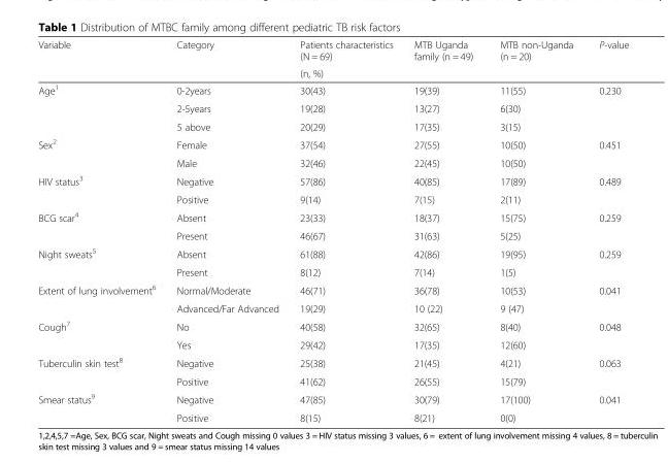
<table><thead><tr><td rowspan="2">Variable</td><td rowspan="2">Category</td><td rowspan="2">Patients characteristics (N = 69) (n, %)</td><td rowspan="2">MTB Uganda family (n = 49)</td><td rowspan="2">MTB non-Uganda (n = 20)</td><td rowspan="2">P-value</td></tr><tr></tr></thead><tbody><tr><td rowspan="3">Age<sup>1</sup></td><td>0-2years</td><td>30(43)</td><td>19(39)</td><td>11(55)</td><td rowspan="3">0.230</td></tr><tr><td>2-5years</td><td>19(28)</td><td>13(27)</td><td>6(30)</td></tr><tr><td>5 above</td><td>20(29)</td><td>17(35)</td><td>3(15)</td></tr><tr><td rowspan="2">Sex<sup>2</sup></td><td>Female</td><td>37(54)</td><td>27(55)</td><td>10(50)</td><td rowspan="2">0.451</td></tr><tr><td>Male</td><td>32(46)</td><td>22(45)</td><td>10(50)</td></tr><tr><td rowspan="2">HIV status<sup>3</sup></td><td>Negative</td><td>57(86)</td><td>40(85)</td><td>17(89)</td><td rowspan="2">0.489</td></tr><tr><td>Positive</td><td>9(14)</td><td>7(15)</td><td>2(11)</td></tr><tr><td rowspan="2">BCG scar<sup>4</sup></td><td>Absent</td><td>23(33)</td><td>18(37)</td><td>15(75)</td><td rowspan="2">0.259</td></tr><tr><td>Present</td><td>46(67)</td><td>31(63)</td><td>5(25)</td></tr><tr><td rowspan="2">Night sweats<sup>5</sup></td><td>Absent</td><td>61(88)</td><td>42(86)</td><td>19(95)</td><td rowspan="2">0.259</td></tr><tr><td>Present</td><td>8(12)</td><td>7(14)</td><td>1(5)</td></tr><tr><td rowspan="2">Extent of lung involvement<sup>6</sup></td><td>Normal/Moderate</td><td>46(71)</td><td>36(78)</td><td>10(53)</td><td rowspan="2">0.041</td></tr><tr><td>Advanced/Far Advanced</td><td>19(29)</td><td>10 (22)</td><td>9 (47)</td></tr><tr><td rowspan="2">Cough<sup>7</sup></td><td>No</td><td>40(58)</td><td>32(65)</td><td>8(40)</td><td rowspan="2">0.048</td></tr><tr><td>Yes</td><td>29(42)</td><td>17(35)</td><td>12(60)</td></tr><tr><td rowspan="2">Tuberculin skin test<sup>8</sup></td><td>Negative</td><td>25(38)</td><td>21(45)</td><td>4(21)</td><td rowspan="2">0.063</td></tr><tr><td>Positive</td><td>41(62)</td><td>26(55)</td><td>15(79)</td></tr><tr><td rowspan="2">Smear status<sup>9</sup></td><td>Negative</td><td>47(85)</td><td>30(79)</td><td>17(100)</td><td rowspan="2">0.041</td></tr><tr><td>Positive</td><td>8(15)</td><td>8(21)</td><td>0(0)</td></tr></tbody></table>